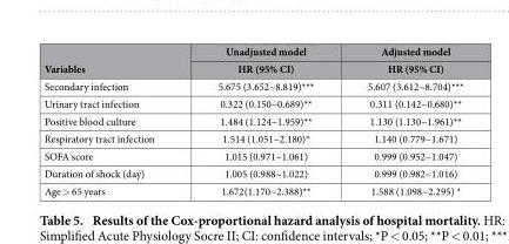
<table><thead><tr><td rowspan="2">Variables</td><td rowspan="2">Unadjusted model HR (95% CI)</td><td rowspan="2">Adjusted model HR (95% CI)</td></tr><tr></tr></thead><tbody><tr><td>Secondary infection</td><td>5.675 (3.652~8.819)***</td><td>5.607 (3.612~8.704)***</td></tr><tr><td>Urinary tract infection</td><td>0.322 (0.150~0.689)**</td><td>0.311 (0.142~0.680)**</td></tr><tr><td>Positive blood culture</td><td>1.484 (1.124~1.959)**</td><td>1.130 (1.130~1.961)**</td></tr><tr><td>Respiratory tract infection</td><td>1.514 (1.051~2.180)*</td><td>1.140 (0.779~1.671)</td></tr><tr><td>SOFA score</td><td>1.015 (0.971~1.061)</td><td>0.999 (0.952~1.047)</td></tr><tr><td>Duration of shock (day)</td><td>1.005 (0.988~1.022)</td><td>0.999 (0.982~1.016)</td></tr><tr><td>Age &gt; 65 years</td><td>1.672(1.170~2.388)**</td><td>1.588 (1.098~2.295) *</td></tr></tbody></table>